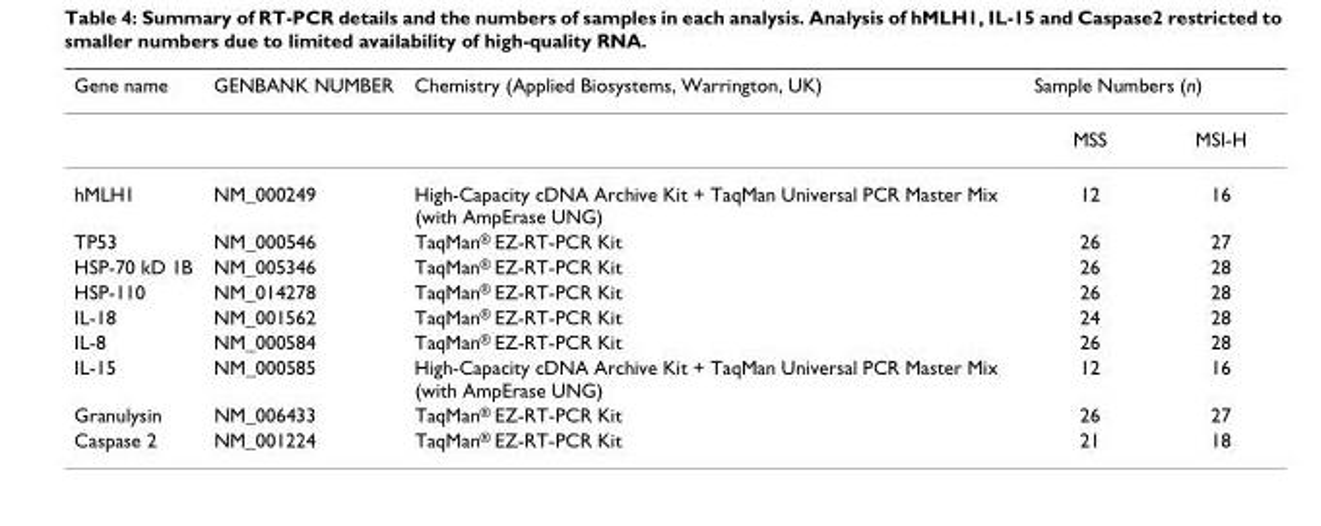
<table><thead><tr><td rowspan="2">Gene name</td><td rowspan="2">GENBANK NUMBER</td><td rowspan="2">Chemistry (Applied Biosystems, Warrington, UK)</td><td colspan="2">Sample Numbers (n)</td></tr><tr><td>MSS</td><td>MSI-H</td></tr></thead><tbody><tr><td>hMLH1</td><td>NM_000249</td><td>High-Capacity cDNA Archive Kit + TaqMan Universal PCR Master Mix (with AmpErase UNG)</td><td>12</td><td>16</td></tr><tr><td>TP53</td><td>NM_000546</td><td>TaqMan<sup>®</sup> EZ-RT-PCR Kit</td><td>26</td><td>27</td></tr><tr><td>HSP-70 kD 1B</td><td>NM_005346</td><td>TaqMan<sup>®</sup> EZ-RT-PCR Kit</td><td>26</td><td>28</td></tr><tr><td>HSP-110</td><td>NM_014278</td><td>TaqMan<sup>®</sup> EZ-RT-PCR Kit</td><td>26</td><td>28</td></tr><tr><td>IL-18</td><td>NM_001562</td><td>TaqMan<sup>®</sup> EZ-RT-PCR Kit</td><td>24</td><td>28</td></tr><tr><td>IL-8</td><td>NM_000584</td><td>TaqMan<sup>®</sup> EZ-RT-PCR Kit</td><td>26</td><td>28</td></tr><tr><td>IL-15</td><td>NM_000585</td><td>High-Capacity cDNA Archive Kit + TaqMan Universal PCR Master Mix (with AmpErase UNG)</td><td>12</td><td>16</td></tr><tr><td>Granulysin</td><td>NM_006433</td><td>TaqMan<sup>®</sup> EZ-RT-PCR Kit</td><td>26</td><td>27</td></tr><tr><td>Caspase 2</td><td>NM_001224</td><td>TaqMan<sup>®</sup> EZ-RT-PCR Kit</td><td>21</td><td>18</td></tr></tbody></table>